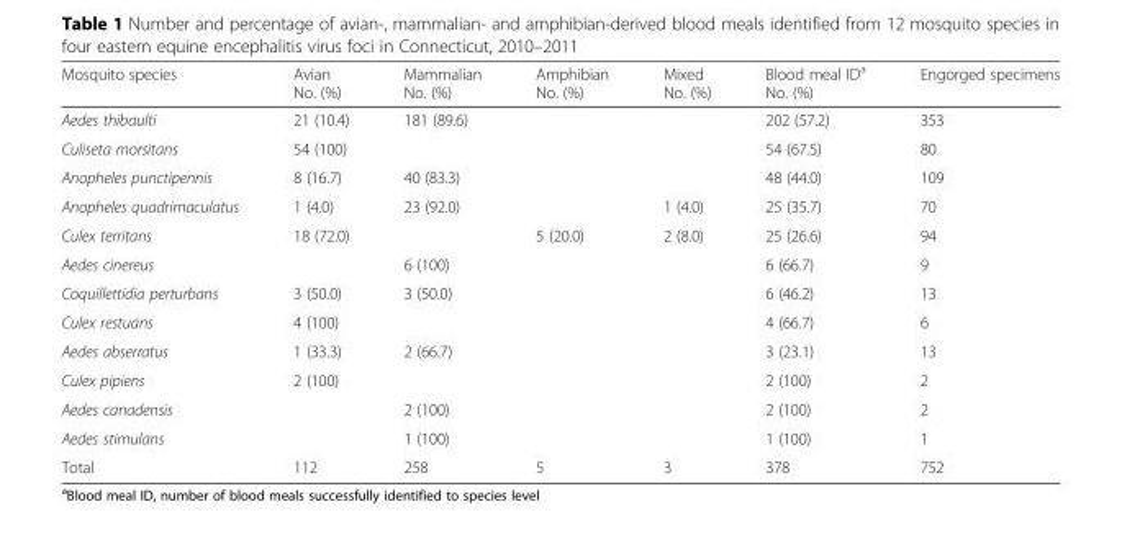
<table><thead><tr><td>Mosquito species</td><td>Avian No. (%)</td><td>Mammalian No. (%)</td><td>Amphibian No. (%)</td><td>Mixed No. (%)</td><td>Blood meal ID<sup>a</sup> No. (%)</td><td>Engorged specimens</td></tr></thead><tbody><tr><td>Aedes thibaulti</td><td>21 (10.4)</td><td>181 (89.6)</td><td></td><td></td><td>202 (57.2)</td><td>353</td></tr><tr><td>Culiseta morsitans</td><td>54 (100)</td><td></td><td></td><td></td><td>54 (67.5)</td><td>80</td></tr><tr><td>Anopheles punctipennis</td><td>8 (16.7)</td><td>40 (83.3)</td><td></td><td></td><td>48 (44.0)</td><td>109</td></tr><tr><td>Anopheles quadrimaculatus</td><td>1 (4.0)</td><td>23 (92.0)</td><td></td><td>1 (4.0)</td><td>25 (35.7)</td><td>70</td></tr><tr><td>Culex territans</td><td>18 (72.0)</td><td></td><td>5 (20.0)</td><td>2 (8.0)</td><td>25 (26.6)</td><td>94</td></tr><tr><td>Aedes cinereus</td><td></td><td>6 (100)</td><td></td><td></td><td>6 (66.7)</td><td>9</td></tr><tr><td>Coquillettidia perturbans</td><td>3 (50.0)</td><td>3 (50.0)</td><td></td><td></td><td>6 (46.2)</td><td>13</td></tr><tr><td>Culex restuans</td><td>4 (100)</td><td></td><td></td><td></td><td>4 (66.7)</td><td>6</td></tr><tr><td>Aedes abserratus</td><td>1 (33.3)</td><td>2 (66.7)</td><td></td><td></td><td>3 (23.1)</td><td>13</td></tr><tr><td>Culex pipiens</td><td>2 (100)</td><td></td><td></td><td></td><td>2 (100)</td><td>2</td></tr><tr><td>Aedes canadensis</td><td></td><td>2 (100)</td><td></td><td></td><td>2 (100)</td><td>2</td></tr><tr><td>Aedes stimulans</td><td></td><td>1 (100)</td><td></td><td></td><td>1 (100)</td><td>1</td></tr><tr><td>Total</td><td>112</td><td>258</td><td>5</td><td>3</td><td>378</td><td>752</td></tr></tbody></table>